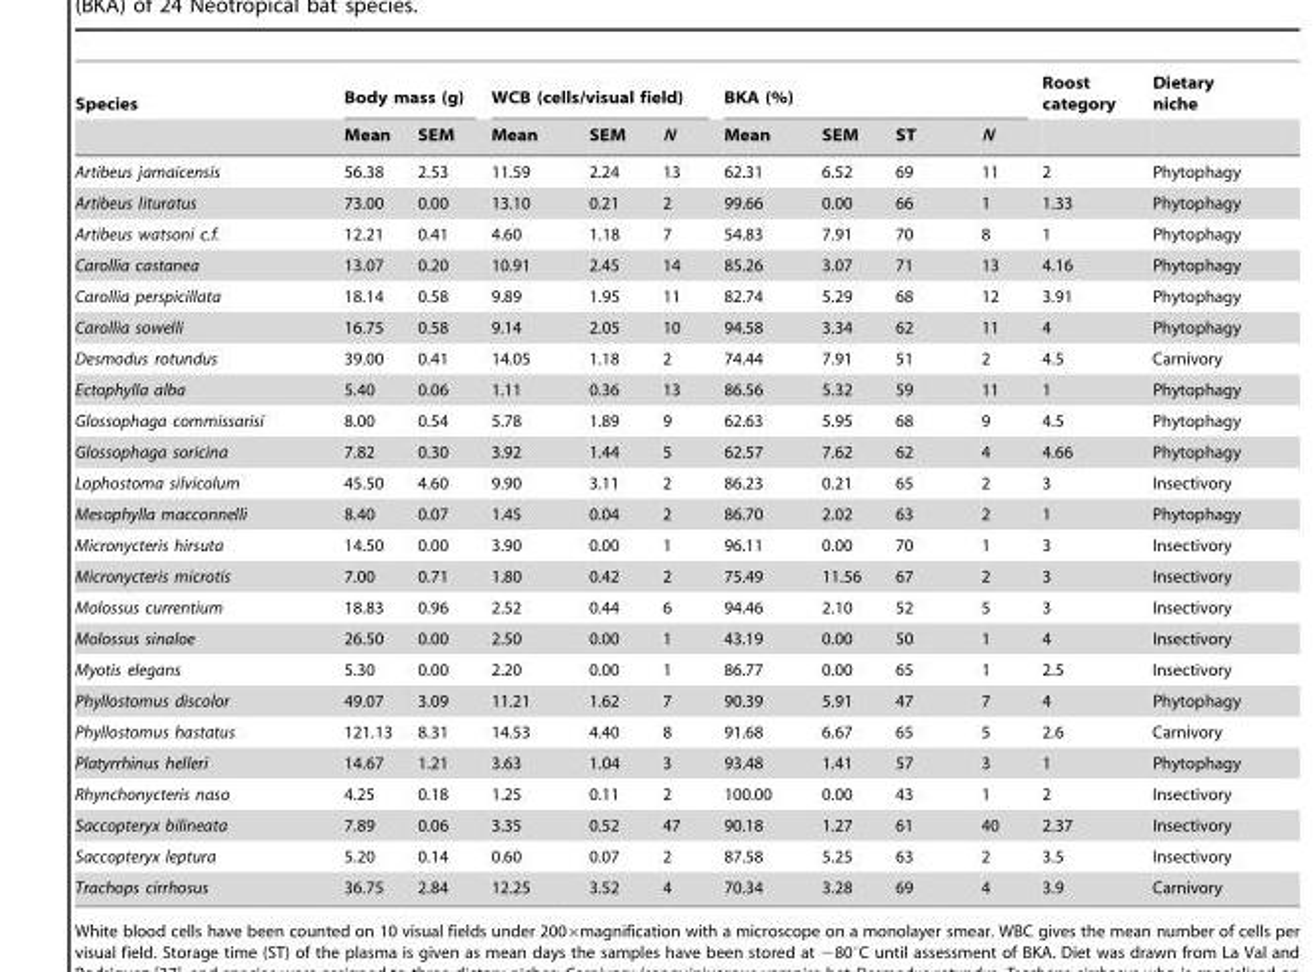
<table><thead><tr><td rowspan="2">Species</td><td colspan="2">Body mass (g)</td><td colspan="3">WCB (cells/visual field)</td><td colspan="4">BKA (%)</td><td rowspan="2">Roost category</td><td rowspan="2">Dietary niche</td></tr><tr><td>Mean</td><td>SEM</td><td>Mean</td><td>SEM</td><td>N</td><td>Mean</td><td>SEM</td><td>ST</td><td>N</td></tr></thead><tbody><tr><td>Artibeus jamaicensis</td><td>56.38</td><td>2.53</td><td>11.59</td><td>2.24</td><td>13</td><td>62.31</td><td>6.52</td><td>69</td><td>11</td><td>2</td><td>Phytophagy</td></tr><tr><td>Artibeus lituratus</td><td>73.00</td><td>0.00</td><td>13.10</td><td>0.21</td><td>2</td><td>99.66</td><td>0.00</td><td>66</td><td>1</td><td>1.33</td><td>Phytophagy</td></tr><tr><td>Artibeus watsoni c.f.</td><td>12.21</td><td>0.41</td><td>4.60</td><td>1.18</td><td>7</td><td>54.83</td><td>7.91</td><td>70</td><td>8</td><td>1</td><td>Phytophagy</td></tr><tr><td>Carollia castanea</td><td>13.07</td><td>0.20</td><td>10.91</td><td>2.45</td><td>14</td><td>85.26</td><td>3.07</td><td>71</td><td>13</td><td>4.16</td><td>Phytophagy</td></tr><tr><td>Carollia perspicillata</td><td>18.14</td><td>0.58</td><td>9.89</td><td>1.95</td><td>11</td><td>82.74</td><td>5.29</td><td>68</td><td>12</td><td>3.91</td><td>Phytophagy</td></tr><tr><td>Carollia sowelli</td><td>16.75</td><td>0.58</td><td>9.14</td><td>2.05</td><td>10</td><td>94.58</td><td>3.34</td><td>62</td><td>11</td><td>4</td><td>Phytophagy</td></tr><tr><td>Desmodus rotundus</td><td>39.00</td><td>0.41</td><td>14.05</td><td>1.18</td><td>2</td><td>74.44</td><td>7.91</td><td>51</td><td>2</td><td>4.5</td><td>Carnivory</td></tr><tr><td>Ectophylla alba</td><td>5.40</td><td>0.06</td><td>1.11</td><td>0.36</td><td>13</td><td>86.56</td><td>5.32</td><td>59</td><td>11</td><td>1</td><td>Phytophagy</td></tr><tr><td>Glossophaga commissarisi</td><td>8.00</td><td>0.54</td><td>5.78</td><td>1.89</td><td>9</td><td>62.63</td><td>5.95</td><td>68</td><td>9</td><td>4.5</td><td>Phytophagy</td></tr><tr><td>Glossophaga soricina</td><td>7.82</td><td>0.30</td><td>3.92</td><td>1.44</td><td>5</td><td>62.57</td><td>7.62</td><td>62</td><td>4</td><td>4.66</td><td>Phytophagy</td></tr><tr><td>Lophostoma silvicolum</td><td>45.50</td><td>4.60</td><td>9.90</td><td>3.11</td><td>2</td><td>86.23</td><td>0.21</td><td>65</td><td>2</td><td>3</td><td>Insectivory</td></tr><tr><td>Mesophylla macconnelli</td><td>8.40</td><td>0.07</td><td>1.45</td><td>0.04</td><td>2</td><td>86.70</td><td>2.02</td><td>63</td><td>2</td><td>1</td><td>Phytophagy</td></tr><tr><td>Micronycteris hirsuta</td><td>14.50</td><td>0.00</td><td>3.90</td><td>0.00</td><td>1</td><td>96.11</td><td>0.00</td><td>70</td><td>1</td><td>3</td><td>Insectivory</td></tr><tr><td>Micronycteris microtis</td><td>7.00</td><td>0.71</td><td>1.80</td><td>0.42</td><td>2</td><td>75.49</td><td>11.56</td><td>67</td><td>2</td><td>3</td><td>Insectivory</td></tr><tr><td>Molossus currentium</td><td>18.83</td><td>0.96</td><td>2.52</td><td>0.44</td><td>6</td><td>94.46</td><td>2.10</td><td>52</td><td>5</td><td>3</td><td>Insectivory</td></tr><tr><td>Molossus sinaloe</td><td>26.50</td><td>0.00</td><td>2.50</td><td>0.00</td><td>1</td><td>43.19</td><td>0.00</td><td>50</td><td>1</td><td>4</td><td>Insectivory</td></tr><tr><td>Myotis elegans</td><td>5.30</td><td>0.00</td><td>2.20</td><td>0.00</td><td>1</td><td>86.77</td><td>0.00</td><td>65</td><td>1</td><td>2.5</td><td>Insectivory</td></tr><tr><td>Phyllostomus discolor</td><td>49.07</td><td>3.09</td><td>11.21</td><td>1.62</td><td>7</td><td>90.39</td><td>5.91</td><td>47</td><td>7</td><td>4</td><td>Phytophagy</td></tr><tr><td>Phyllostomus hastatus</td><td>121.13</td><td>8.31</td><td>14.53</td><td>4.40</td><td>8</td><td>91.68</td><td>6.67</td><td>65</td><td>5</td><td>2.6</td><td>Carnivory</td></tr><tr><td>Platyrrhinus helleri</td><td>14.67</td><td>1.21</td><td>3.63</td><td>1.04</td><td>3</td><td>93.48</td><td>1.41</td><td>57</td><td>3</td><td>1</td><td>Phytophagy</td></tr><tr><td>Rhynchonycteris naso</td><td>4.25</td><td>0.18</td><td>1.25</td><td>0.11</td><td>2</td><td>100.00</td><td>0.00</td><td>43</td><td>1</td><td>2</td><td>Insectivory</td></tr><tr><td>Saccopteryx bilineata</td><td>7.89</td><td>0.06</td><td>3.35</td><td>0.52</td><td>47</td><td>90.18</td><td>1.27</td><td>61</td><td>40</td><td>2.37</td><td>Insectivory</td></tr><tr><td>Saccopteryx leptura</td><td>5.20</td><td>0.14</td><td>0.60</td><td>0.07</td><td>2</td><td>87.58</td><td>5.25</td><td>63</td><td>2</td><td>3.5</td><td>Insectivory</td></tr><tr><td>Trachops cirrhosus</td><td>36.75</td><td>2.84</td><td>12.25</td><td>3.52</td><td>4</td><td>70.34</td><td>3.28</td><td>69</td><td>4</td><td>3.9</td><td>Carnivory</td></tr></tbody></table>